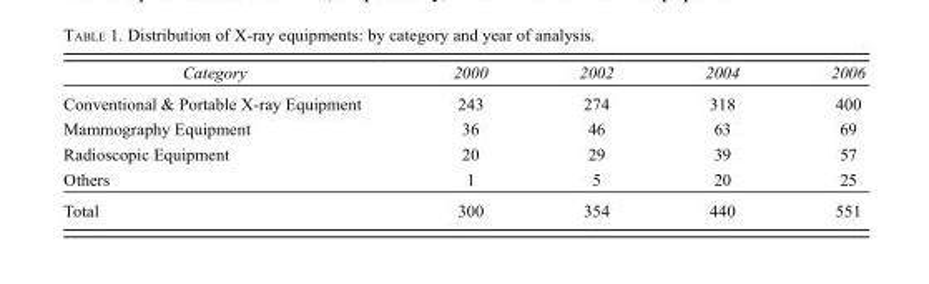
<table><thead><tr><td>Category</td><td>2000</td><td>2002</td><td>2004</td><td>2006</td></tr></thead><tbody><tr><td>Conventional &amp; Portable X-ray Equipment</td><td>243</td><td>274</td><td>318</td><td>400</td></tr><tr><td>Mammography Equipment</td><td>36</td><td>46</td><td>63</td><td>69</td></tr><tr><td>Radioscopic Equipment</td><td>20</td><td>29</td><td>39</td><td>57</td></tr><tr><td>Others</td><td>1</td><td>5</td><td>20</td><td>25</td></tr><tr><td>Total</td><td>300</td><td>354</td><td>440</td><td>551</td></tr></tbody></table>